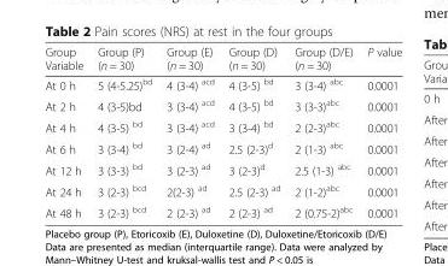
<table><thead><tr><td>Group Variable</td><td>Group (P) (n = 30)</td><td>Group (E) (n = 30)</td><td>Group (D) (n = 30)</td><td>Group (D/E) (n = 30)</td><td>P value</td></tr></thead><tbody><tr><td>At 0 h</td><td>5 (4-5.25)<sup>bd</sup></td><td>4 (3-4) <sup>acd</sup></td><td>4 (3-5) <sup>bd</sup></td><td>3 (3-4) <sup>abc</sup></td><td>0.0001</td></tr><tr><td>At 2 h</td><td>4 (3-5)bd</td><td>3 (3-4) <sup>acd</sup></td><td>4 (3-5) <sup>bd</sup></td><td>3 (3-3)<sup>abc</sup></td><td>0.0001</td></tr><tr><td>At 4 h</td><td>4 (3-5) <sup>bd</sup></td><td>3 (3-4) <sup>acd</sup></td><td>3 (3-4) <sup>bd</sup></td><td>2 (2-3)<sup>abc</sup></td><td>0.0001</td></tr><tr><td>At 6 h</td><td>3 (3-4) <sup>bd</sup></td><td>3 (2-4) <sup>ad</sup></td><td>2.5 (2-3)<sup>d</sup></td><td>2 (1-3) <sup>abc</sup></td><td>0.0001</td></tr><tr><td>At 12 h</td><td>3 (3-3) <sup>bd</sup></td><td>3 (2-3) <sup>ad</sup></td><td>3 (2-3)<sup>d</sup></td><td>2.5 (1-3) <sup>abc</sup></td><td>0.0001</td></tr><tr><td>At 24 h</td><td>3 (2-3) <sup>bcd</sup></td><td>2(2-3) <sup>ad</sup></td><td>2.5 (2-3) <sup>ad</sup></td><td>2 (1-2)<sup>abc</sup></td><td>0.0001</td></tr><tr><td>At 48 h</td><td>3 (2-3) <sup>bcd</sup></td><td>2 (2-3) <sup>ad</sup></td><td>2 (2-3) <sup>ad</sup></td><td>2 (0.75-2)<sup>abc</sup></td><td>0.0001</td></tr></tbody></table>